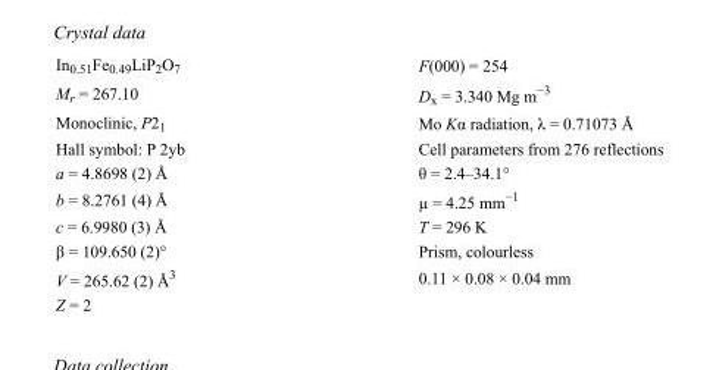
<table><tbody><tr><td>In<sub>0.51</sub>Fe<sub>0.49</sub>LiP<sub>2</sub>O<sub>7</sub></td><td>F(000) = 254</td></tr><tr><td>M<sub>r</sub> = 267.10</td><td>D<sub>x</sub> = 3.340 Mg m<sup>−3</sup></td></tr><tr><td>Monoclinic, P2<sub>1</sub></td><td>Mo Kα radiation, λ = 0.71073 Å</td></tr><tr><td>Hall symbol: P 2yb</td><td>Cell parameters from 276 reflections</td></tr><tr><td>a = 4.8698 (2) Å</td><td>θ = 2.4–34.1°</td></tr><tr><td>b = 8.2761 (4) Å</td><td>µ = 4.25 mm<sup>−1</sup></td></tr><tr><td>c = 6.9980 (3) Å</td><td>T = 296 K</td></tr><tr><td>β = 109.650 (2)°</td><td>Prism, colourless</td></tr><tr><td>V = 265.62 (2) Å<sup>3</sup></td><td>0.11 × 0.08 × 0.04 mm</td></tr><tr><td>Z = 2</td><td></td></tr></tbody></table>